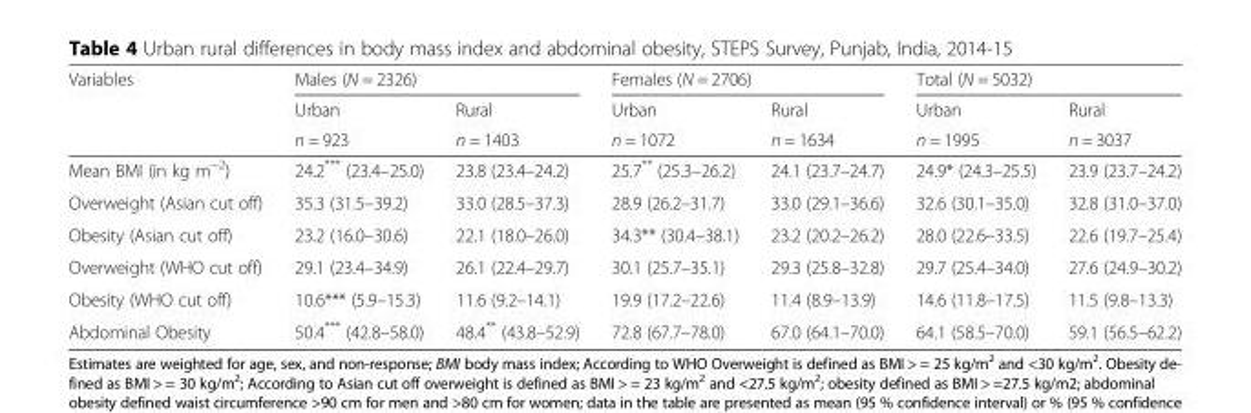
<table><thead><tr><td rowspan="3">Variables</td><td colspan="2">Males (N = 2326)</td><td colspan="2">Females (N = 2706)</td><td colspan="2">Total (N = 5032)</td></tr><tr><td rowspan="2">Urban n = 923</td><td rowspan="2">Rural n = 1403</td><td rowspan="2">Urban n = 1072</td><td rowspan="2">Rural n = 1634</td><td rowspan="2">Urban n = 1995</td><td rowspan="2">Rural n = 3037</td></tr><tr></tr></thead><tbody><tr><td>Mean BMI (in kg m<sup>−2</sup>)</td><td>24.2*** (23.4–25.0)</td><td>23.8 (23.4–24.2)</td><td>25.7** (25.3–26.2)</td><td>24.1 (23.7–24.7)</td><td>24.9* (24.3–25.5)</td><td>23.9 (23.7–24.2)</td></tr><tr><td>Overweight (Asian cut off)</td><td>35.3 (31.5–39.2)</td><td>33.0 (28.5–37.3)</td><td>28.9 (26.2–31.7)</td><td>33.0 (29.1–36.6)</td><td>32.6 (30.1–35.0)</td><td>32.8 (31.0–37.0)</td></tr><tr><td>Obesity (Asian cut off)</td><td>23.2 (16.0–30.6)</td><td>22.1 (18.0–26.0)</td><td>34.3** (30.4–38.1)</td><td>23.2 (20.2–26.2)</td><td>28.0 (22.6–33.5)</td><td>22.6 (19.7–25.4)</td></tr><tr><td>Overweight (WHO cut off)</td><td>29.1 (23.4–34.9)</td><td>26.1 (22.4–29.7)</td><td>30.1 (25.7–35.1)</td><td>29.3 (25.8–32.8)</td><td>29.7 (25.4–34.0)</td><td>27.6 (24.9–30.2)</td></tr><tr><td>Obesity (WHO cut off)</td><td>10.6*** (5.9–15.3)</td><td>11.6 (9.2–14.1)</td><td>19.9 (17.2–22.6)</td><td>11.4 (8.9–13.9)</td><td>14.6 (11.8–17.5)</td><td>11.5 (9.8–13.3)</td></tr><tr><td>Abdominal Obesity</td><td>50.4*** (42.8–58.0)</td><td>48.4** (43.8–52.9)</td><td>72.8 (67.7–78.0)</td><td>67.0 (64.1–70.0)</td><td>64.1 (58.5–70.0)</td><td>59.1 (56.5–62.2)</td></tr></tbody></table>